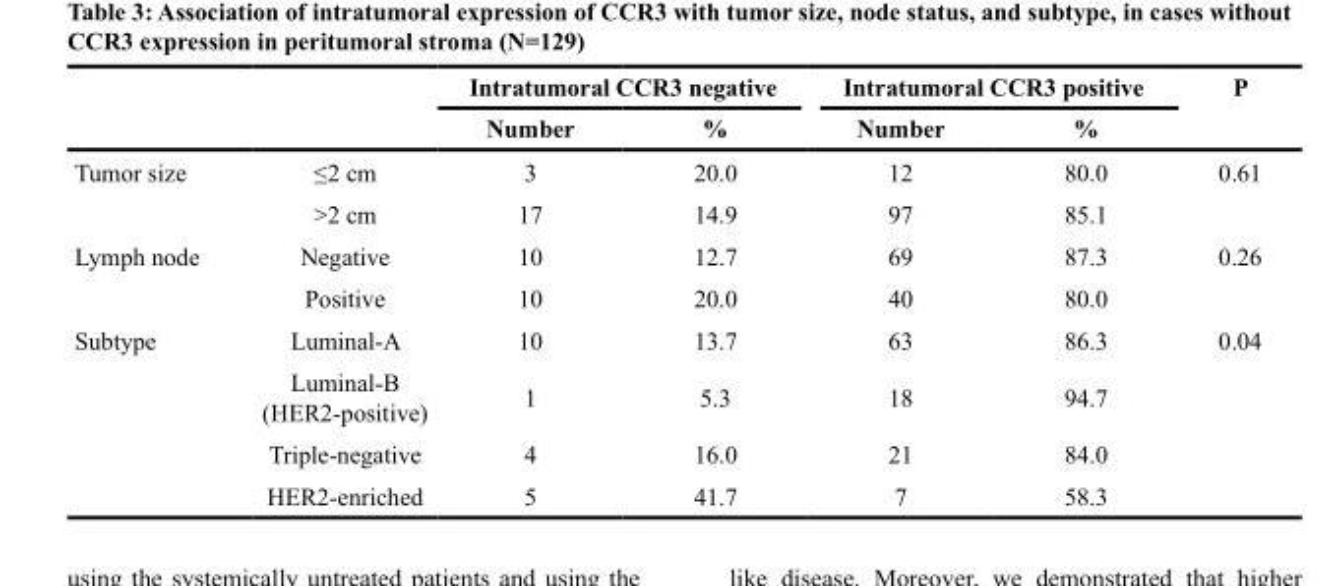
<table><thead><tr><td rowspan="2"></td><td rowspan="2"></td><td colspan="2">Intratumoral CCR3 negative</td><td colspan="2">Intratumoral CCR3 positive</td><td rowspan="2">P</td></tr><tr><td>Number</td><td>%</td><td>Number</td><td>%</td></tr></thead><tbody><tr><td rowspan="2">Tumor size</td><td>≤2 cm</td><td>3</td><td>20.0</td><td>12</td><td>80.0</td><td>0.61</td></tr><tr><td>&gt;2 cm</td><td>17</td><td>14.9</td><td>97</td><td>85.1</td><td></td></tr><tr><td rowspan="2">Lymph node</td><td>Negative</td><td>10</td><td>12.7</td><td>69</td><td>87.3</td><td>0.26</td></tr><tr><td>Positive</td><td>10</td><td>20.0</td><td>40</td><td>80.0</td><td></td></tr><tr><td rowspan="4">Subtype</td><td>Luminal-A</td><td>10</td><td>13.7</td><td>63</td><td>86.3</td><td>0.04</td></tr><tr><td>Luminal-B (HER2-positive)</td><td>1</td><td>5.3</td><td>18</td><td>94.7</td><td></td></tr><tr><td>Triple-negative</td><td>4</td><td>16.0</td><td>21</td><td>84.0</td><td></td></tr><tr><td>HER2-enriched</td><td>5</td><td>41.7</td><td>7</td><td>58.3</td><td></td></tr></tbody></table>